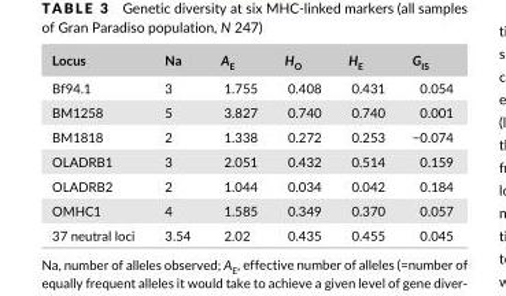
<table><thead><tr><td>Locus</td><td>Na</td><td>A<sub>E</sub></td><td>H<sub>O</sub></td><td>H<sub>E</sub></td><td>G<sub>IS</sub></td></tr></thead><tbody><tr><td>Bf94.1</td><td>3</td><td>1.755</td><td>0.408</td><td>0.431</td><td>0.054</td></tr><tr><td>BM1258</td><td>5</td><td>3.827</td><td>0.740</td><td>0.740</td><td>0.001</td></tr><tr><td>BM1818</td><td>2</td><td>1.338</td><td>0.272</td><td>0.253</td><td>−0.074</td></tr><tr><td>OLADRB1</td><td>3</td><td>2.051</td><td>0.432</td><td>0.514</td><td>0.159</td></tr><tr><td>OLADRB2</td><td>2</td><td>1.044</td><td>0.034</td><td>0.042</td><td>0.184</td></tr><tr><td>OMHC1</td><td>4</td><td>1.585</td><td>0.349</td><td>0.370</td><td>0.057</td></tr><tr><td>37 neutral loci</td><td>3.54</td><td>2.02</td><td>0.435</td><td>0.455</td><td>0.045</td></tr></tbody></table>